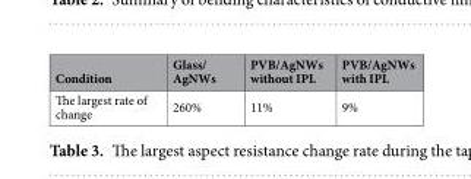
<table><thead><tr><td>Condition</td><td>Glass/ AgNWs</td><td>PVB/AgNWs without IPL</td><td>PVB/AgNWs with IPL</td></tr></thead><tbody><tr><td>The largest rate of change</td><td>260%</td><td>11%</td><td>9%</td></tr></tbody></table>